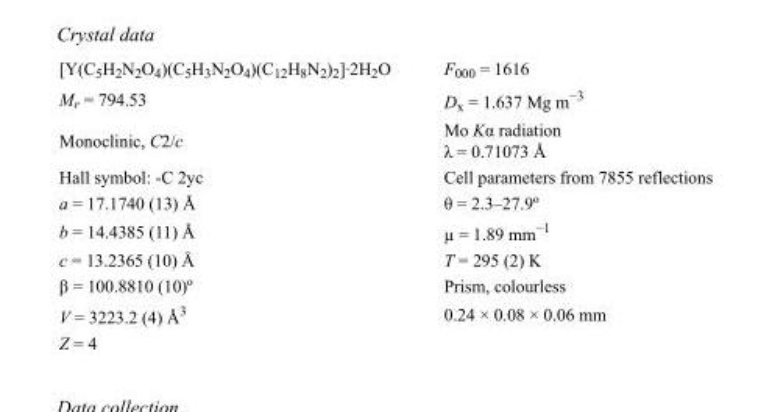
<table><tbody><tr><td>[Y(C<sub>5</sub>H<sub>2</sub>N<sub>2</sub>O<sub>4</sub>)(C<sub>5</sub>H<sub>3</sub>N<sub>2</sub>O<sub>4</sub>)(C<sub>12</sub>H<sub>8</sub>N<sub>2</sub>)<sub>2</sub>]·2H<sub>2</sub>O</td><td>F<sub>000</sub> = 1616</td></tr><tr><td>M<sub>r</sub> = 794.53</td><td>D<sub>x</sub> = 1.637 Mg m<sup>−3</sup></td></tr><tr><td>Monoclinic, C2/c</td><td>Mo Kα radiation λ = 0.71073 Å</td></tr><tr><td>Hall symbol: -C 2yc</td><td>Cell parameters from 7855 reflections</td></tr><tr><td>a = 17.1740 (13) Å</td><td>θ = 2.3–27.9º</td></tr><tr><td>b = 14.4385 (11) Å</td><td>µ = 1.89 mm<sup>−1</sup></td></tr><tr><td>c = 13.2365 (10) Å</td><td>T = 295 (2) K</td></tr><tr><td>β = 100.8810 (10)º</td><td>Prism, colourless</td></tr><tr><td>V = 3223.2 (4) Å<sup>3</sup></td><td>0.24 × 0.08 × 0.06 mm</td></tr><tr><td>Z = 4</td><td></td></tr></tbody></table>